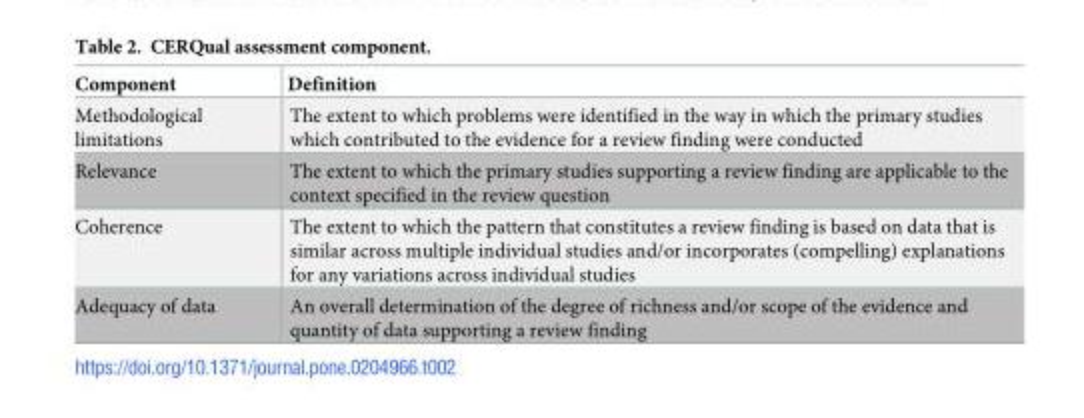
<table><thead><tr><td>Component</td><td>Definition</td></tr></thead><tbody><tr><td>Methodological limitations</td><td>The extent to which problems were identified in the way in which the primary studies which contributed to the evidence for a review finding were conducted</td></tr><tr><td>Relevance</td><td>The extent to which the primary studies supporting a review finding are applicable to the context specified in the review question</td></tr><tr><td>Coherence</td><td>The extent to which the pattern that constitutes a review finding is based on data that is similar across multiple individual studies and/or incorporates (compelling) explanations for any variations across individual studies</td></tr><tr><td>Adequacy of data</td><td>An overall determination of the degree of richness and/or scope of the evidence and quantity of data supporting a review finding</td></tr></tbody></table>